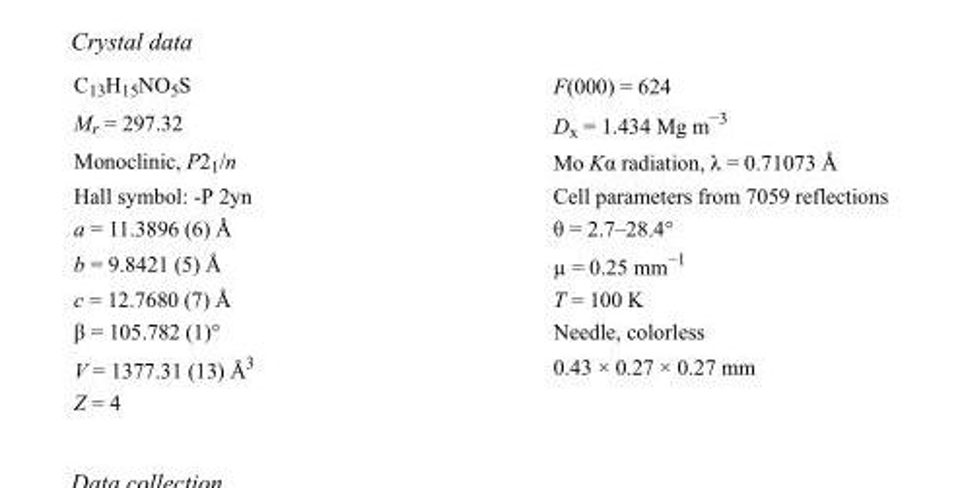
<table><tbody><tr><td>C<sub>13</sub>H<sub>15</sub>NO<sub>5</sub>S</td><td>F(000) = 624</td></tr><tr><td>M<sub>r</sub> = 297.32</td><td>D<sub>x</sub> = 1.434 Mg m<sup>−3</sup></td></tr><tr><td>Monoclinic, P2<sub>1</sub>/n</td><td>Mo Kα radiation, λ = 0.71073 Å</td></tr><tr><td>Hall symbol: -P 2yn</td><td>Cell parameters from 7059 reflections</td></tr><tr><td>a = 11.3896 (6) Å</td><td>θ = 2.7–28.4°</td></tr><tr><td>b = 9.8421 (5) Å</td><td>µ = 0.25 mm<sup>−1</sup></td></tr><tr><td>c = 12.7680 (7) Å</td><td>T = 100 K</td></tr><tr><td>β = 105.782 (1)°</td><td>Needle, colorless</td></tr><tr><td>V = 1377.31 (13) Å<sup>3</sup></td><td>0.43 × 0.27 × 0.27 mm</td></tr><tr><td>Z = 4</td><td></td></tr></tbody></table>